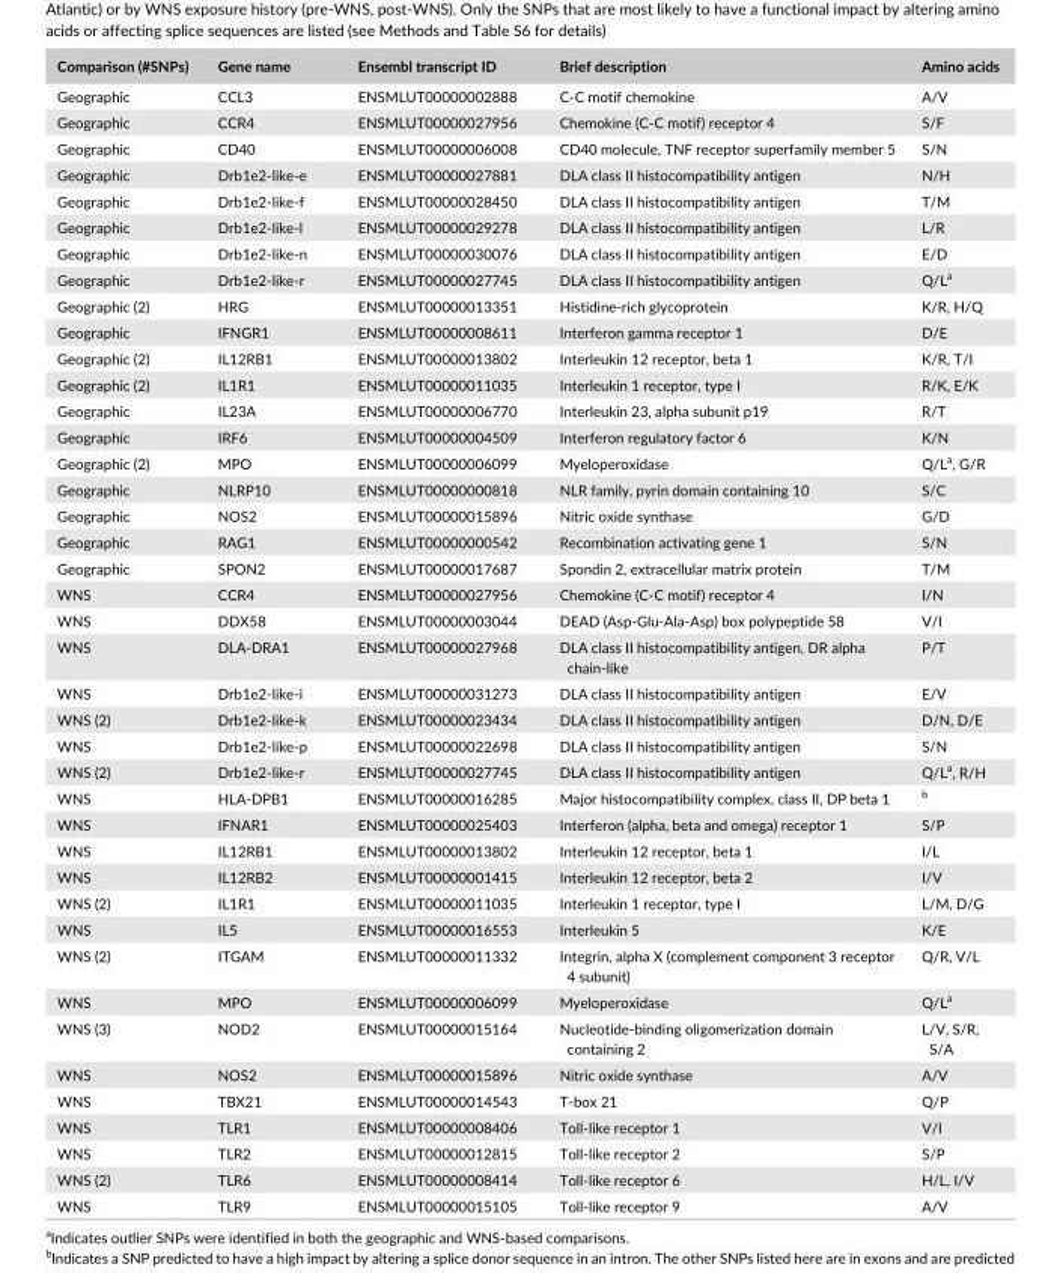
<table><thead><tr><td>Comparison (#SNPs)</td><td>Gene name</td><td>Ensembl transcript ID</td><td>Brief description</td><td>Amino acids</td></tr></thead><tbody><tr><td>Geographic</td><td>CCL3</td><td>ENSMLUT00000002888</td><td>C- C motif chemokine</td><td>A/V</td></tr><tr><td>Geographic</td><td>CCR4</td><td>ENSMLUT00000027956</td><td>Chemokine (C- C motif) receptor 4</td><td>S/F</td></tr><tr><td>Geographic</td><td>CD40</td><td>ENSMLUT00000006008</td><td>CD40 molecule, TNF receptor superfamily member 5</td><td>S/N</td></tr><tr><td>Geographic</td><td>Drb1e2- like- e</td><td>ENSMLUT00000027881</td><td>DLA class II histocompatibility antigen</td><td>N/H</td></tr><tr><td>Geographic</td><td>Drb1e2- like- f</td><td>ENSMLUT00000028450</td><td>DLA class II histocompatibility antigen</td><td>T/M</td></tr><tr><td>Geographic</td><td>Drb1e2- like- l</td><td>ENSMLUT00000029278</td><td>DLA class II histocompatibility antigen</td><td>L/R</td></tr><tr><td>Geographic</td><td>Drb1e2- like- n</td><td>ENSMLUT00000030076</td><td>DLA class II histocompatibility antigen</td><td>E/D</td></tr><tr><td>Geographic</td><td>Drb1e2- like- r</td><td>ENSMLUT00000027745</td><td>DLA class II histocompatibility antigen</td><td>Q/L<sup>a</sup></td></tr><tr><td>Geographic (2)</td><td>HRG</td><td>ENSMLUT00000013351</td><td>Histidine- rich glycoprotein</td><td>K/R, H/Q</td></tr><tr><td>Geographic</td><td>IFNGR1</td><td>ENSMLUT00000008611</td><td>Interferon gamma receptor 1</td><td>D/E</td></tr><tr><td>Geographic (2)</td><td>IL12RB1</td><td>ENSMLUT00000013802</td><td>Interleukin 12 receptor, beta 1</td><td>K/R, T/I</td></tr><tr><td>Geographic (2)</td><td>IL1R1</td><td>ENSMLUT00000011035</td><td>Interleukin 1 receptor, type I</td><td>R/K, E/K</td></tr><tr><td>Geographic</td><td>IL23A</td><td>ENSMLUT00000006770</td><td>Interleukin 23, alpha subunit p19</td><td>R/T</td></tr><tr><td>Geographic</td><td>IRF6</td><td>ENSMLUT00000004509</td><td>Interferon regulatory factor 6</td><td>K/N</td></tr><tr><td>Geographic (2)</td><td>MPO</td><td>ENSMLUT00000006099</td><td>Myeloperoxidase</td><td>Q/L<sup>a</sup>, G/R</td></tr><tr><td>Geographic</td><td>NLRP10</td><td>ENSMLUT00000000818</td><td>NLR family, pyrin domain containing 10</td><td>S/C</td></tr><tr><td>Geographic</td><td>NOS2</td><td>ENSMLUT00000015896</td><td>Nitric oxide synthase</td><td>G/D</td></tr><tr><td>Geographic</td><td>RAG1</td><td>ENSMLUT00000000542</td><td>Recombination activating gene 1</td><td>S/N</td></tr><tr><td>Geographic</td><td>SPON2</td><td>ENSMLUT00000017687</td><td>Spondin 2, extracellular matrix protein</td><td>T/M</td></tr><tr><td>WNS</td><td>CCR4</td><td>ENSMLUT00000027956</td><td>Chemokine (C- C motif) receptor 4</td><td>I/N</td></tr><tr><td>WNS</td><td>DDX58</td><td>ENSMLUT00000003044</td><td>DEAD (Asp- Glu- Ala- Asp) box polypeptide 58</td><td>V/I</td></tr><tr><td>WNS</td><td>DLA- DRA1</td><td>ENSMLUT00000027968</td><td>DLA class II histocompatibility antigen, DR alpha chain- like</td><td>P/T</td></tr><tr><td>WNS</td><td>Drb1e2- like- i</td><td>ENSMLUT00000031273</td><td>DLA class II histocompatibility antigen</td><td>E/V</td></tr><tr><td>WNS (2)</td><td>Drb1e2- like- k</td><td>ENSMLUT00000023434</td><td>DLA class II histocompatibility antigen</td><td>D/N, D/E</td></tr><tr><td>WNS</td><td>Drb1e2- like- p</td><td>ENSMLUT00000022698</td><td>DLA class II histocompatibility antigen</td><td>S/N</td></tr><tr><td>WNS (2)</td><td>Drb1e2- like- r</td><td>ENSMLUT00000027745</td><td>DLA class II histocompatibility antigen</td><td>Q/L<sup>a</sup>, R/H</td></tr><tr><td>WNS</td><td>HLA- DPB1</td><td>ENSMLUT00000016285</td><td>Major histocompatibility complex, class II, DP beta 1</td><td>b</td></tr><tr><td>WNS</td><td>IFNAR1</td><td>ENSMLUT00000025403</td><td>Interferon (alpha, beta and omega) receptor 1</td><td>S/P</td></tr><tr><td>WNS</td><td>IL12RB1</td><td>ENSMLUT00000013802</td><td>Interleukin 12 receptor, beta 1</td><td>I/L</td></tr><tr><td>WNS</td><td>IL12RB2</td><td>ENSMLUT00000001415</td><td>Interleukin 12 receptor, beta 2</td><td>I/V</td></tr><tr><td>WNS (2)</td><td>IL1R1</td><td>ENSMLUT00000011035</td><td>Interleukin 1 receptor, type I</td><td>L/M, D/G</td></tr><tr><td>WNS</td><td>IL5</td><td>ENSMLUT00000016553</td><td>Interleukin 5</td><td>K/E</td></tr><tr><td>WNS (2)</td><td>ITGAM</td><td>ENSMLUT00000011332</td><td>Integrin, alpha X (complement component 3 receptor 4 subunit)</td><td>Q/R, V/L</td></tr><tr><td>WNS</td><td>MPO</td><td>ENSMLUT00000006099</td><td>Myeloperoxidase</td><td>Q/L<sup>a</sup></td></tr><tr><td>WNS (3)</td><td>NOD2</td><td>ENSMLUT00000015164</td><td>Nucleotide- binding oligomerization domain containing 2</td><td>L/V, S/R, S/A</td></tr><tr><td>WNS</td><td>NOS2</td><td>ENSMLUT00000015896</td><td>Nitric oxide synthase</td><td>A/V</td></tr><tr><td>WNS</td><td>TBX21</td><td>ENSMLUT00000014543</td><td>T- box 21</td><td>Q/P</td></tr><tr><td>WNS</td><td>TLR1</td><td>ENSMLUT00000008406</td><td>Toll- like receptor 1</td><td>V/I</td></tr><tr><td>WNS</td><td>TLR2</td><td>ENSMLUT00000012815</td><td>Toll- like receptor 2</td><td>S/P</td></tr><tr><td>WNS (2)</td><td>TLR6</td><td>ENSMLUT00000008414</td><td>Toll- like receptor 6</td><td>H/L, I/V</td></tr><tr><td>WNS</td><td>TLR9</td><td>ENSMLUT00000015105</td><td>Toll- like receptor 9</td><td>A/V</td></tr></tbody></table>